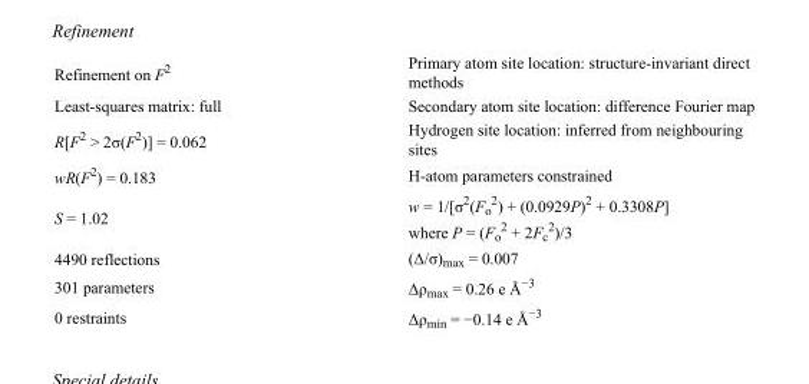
<table><tbody><tr><td>Refinement on F<sup>2</sup></td><td>Primary atom site location: structure-invariant direct methods</td></tr><tr><td>Least-squares matrix: full</td><td>Secondary atom site location: difference Fourier map</td></tr><tr><td>R[F<sup>2</sup> &gt; 2σ(F<sup>2</sup>)] = 0.062</td><td>Hydrogen site location: inferred from neighbouring sites</td></tr><tr><td>wR(F<sup>2</sup>) = 0.183</td><td>H-atom parameters constrained</td></tr><tr><td>S = 1.02</td><td>w = 1/[σ<sup>2</sup>(F<sub>o</sub> <sup>2</sup>) + (0.0929P)<sup>2</sup> + 0.3308P] where P = (F<sub>o</sub> <sup>2</sup> + 2F<sub>c</sub> <sup>2</sup>)/3</td></tr><tr><td>4490 reflections</td><td>(Δ/σ)<sub>max</sub> = 0.007</td></tr><tr><td>301 parameters</td><td>Δρ<sub>max</sub> = 0.26 e Å<sup>−3</sup></td></tr><tr><td>0 restraints</td><td>Δρ<sub>min</sub> = −0.14 e Å<sup>−3</sup></td></tr></tbody></table>